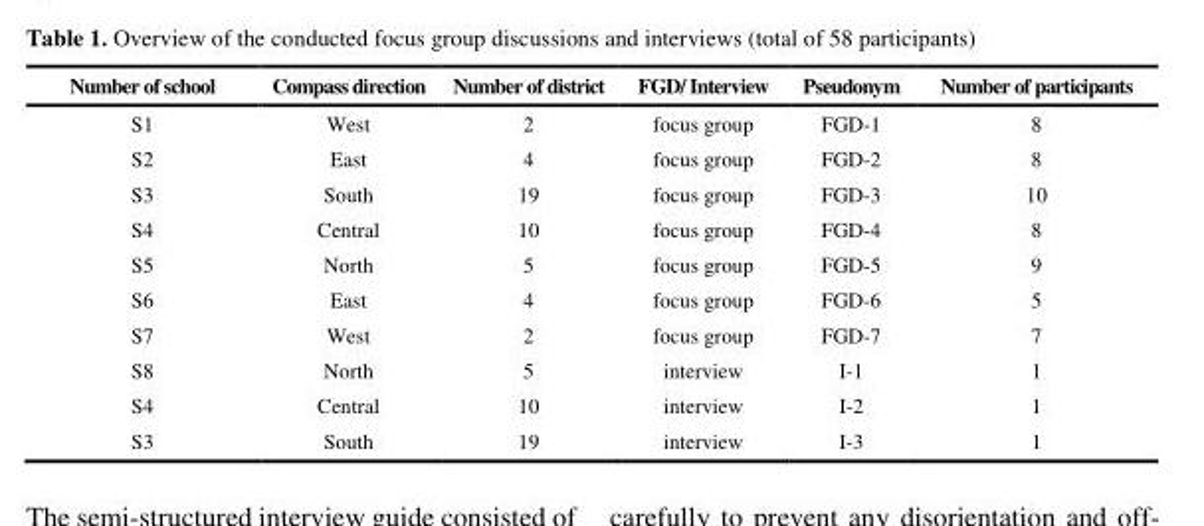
<table><thead><tr><td>Number of school</td><td>Compass direction</td><td>Number of district</td><td>FGD/ Interview</td><td>Pseudonym</td><td>Number of participants</td></tr></thead><tbody><tr><td>S1</td><td>West</td><td>2</td><td>focus group</td><td>FGD-1</td><td>8</td></tr><tr><td>S2</td><td>East</td><td>4</td><td>focus group</td><td>FGD-2</td><td>8</td></tr><tr><td>S3</td><td>South</td><td>19</td><td>focus group</td><td>FGD-3</td><td>10</td></tr><tr><td>S4</td><td>Central</td><td>10</td><td>focus group</td><td>FGD-4</td><td>8</td></tr><tr><td>S5</td><td>North</td><td>5</td><td>focus group</td><td>FGD-5</td><td>9</td></tr><tr><td>S6</td><td>East</td><td>4</td><td>focus group</td><td>FGD-6</td><td>5</td></tr><tr><td>S7</td><td>West</td><td>2</td><td>focus group</td><td>FGD-7</td><td>7</td></tr><tr><td>S8</td><td>North</td><td>5</td><td>interview</td><td>I-1</td><td>1</td></tr><tr><td>S4</td><td>Central</td><td>10</td><td>interview</td><td>I-2</td><td>1</td></tr><tr><td>S3</td><td>South</td><td>19</td><td>interview</td><td>I-3</td><td>1</td></tr></tbody></table>